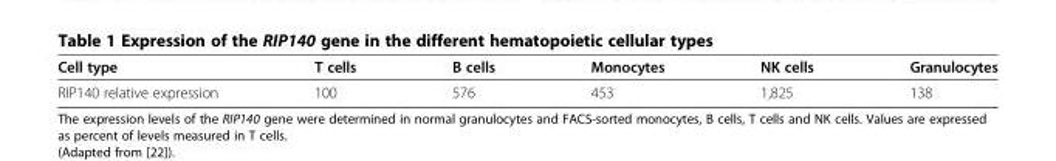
<table><thead><tr><td>Cell type</td><td>T cells</td><td>B cells</td><td>Monocytes</td><td>NK cells</td><td>Granulocytes</td></tr></thead><tbody><tr><td>RIP140 relative expression</td><td>100</td><td>576</td><td>453</td><td>1,825</td><td>138</td></tr></tbody></table>